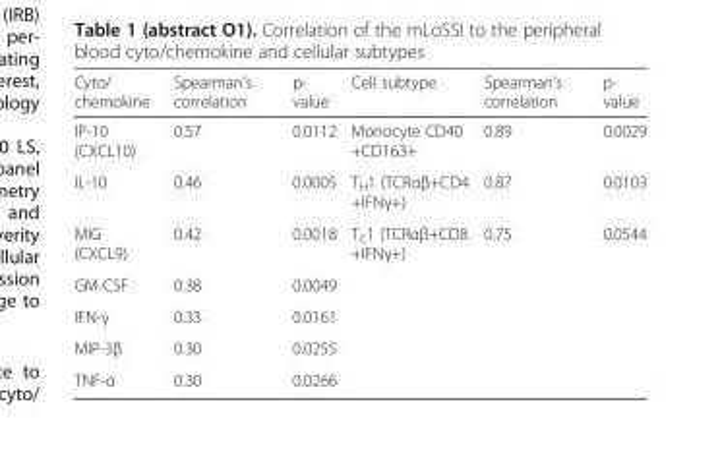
<table><thead><tr><td>Cyto/ chemokine</td><td>Spearman’s correlation</td><td>p- value</td><td>Cell subtype</td><td>Spearman’s correlation</td><td>p- value</td></tr></thead><tbody><tr><td>IP-10 (CXCL10)</td><td>0.57</td><td>0.0112</td><td>Monocyte CD40 +CD163+</td><td>0.89</td><td>0.0029</td></tr><tr><td>IL-10</td><td>0.46</td><td>0.0005</td><td>T<sub>H</sub>1 (TCRαβ+CD4 +IFNγ+)</td><td>0.87</td><td>0.0103</td></tr><tr><td>MIG (CXCL9)</td><td>0.42</td><td>0.0018</td><td>T<sub>C</sub>1 (TCRαβ+CD8 +IFNγ+)</td><td>0.75</td><td>0.0544</td></tr><tr><td>GM-CSF</td><td>0.38</td><td>0.0049</td><td></td><td></td><td></td></tr><tr><td>IFN-γ</td><td>0.33</td><td>0.0161</td><td></td><td></td><td></td></tr><tr><td>MIP-3β</td><td>0.30</td><td>0.0255</td><td></td><td></td><td></td></tr><tr><td>TNF-α</td><td>0.30</td><td>0.0266</td><td></td><td></td><td></td></tr></tbody></table>